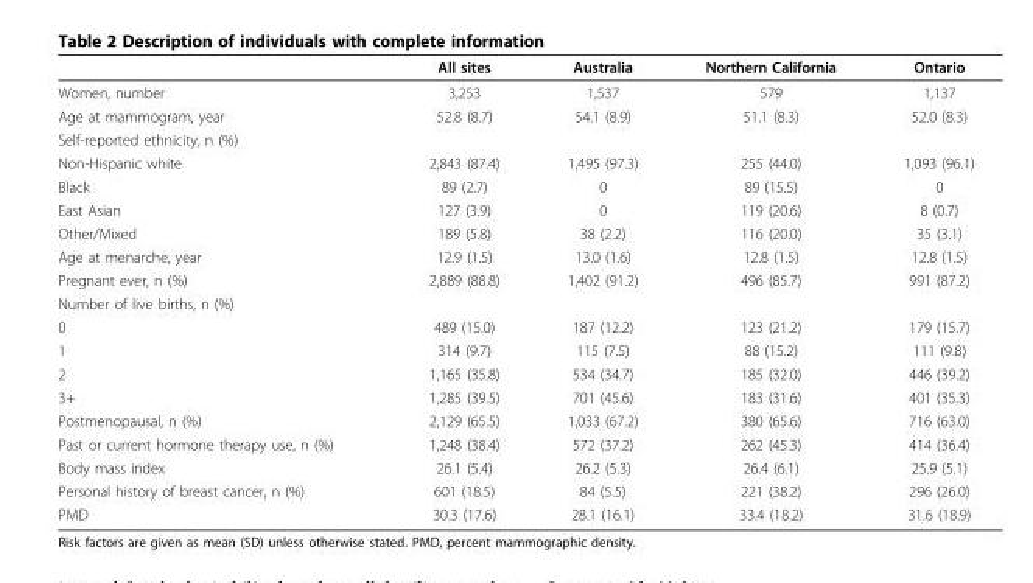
<table><thead><tr><td></td><td>All sites</td><td>Australia</td><td>Northern California</td><td>Ontario</td></tr></thead><tbody><tr><td>Women, number</td><td>3,253</td><td>1,537</td><td>579</td><td>1,137</td></tr><tr><td>Age at mammogram, year</td><td>52.8 (8.7)</td><td>54.1 (8.9)</td><td>51.1 (8.3)</td><td>52.0 (8.3)</td></tr><tr><td colspan="5">Self-reported ethnicity, n (%)</td></tr><tr><td>Non-Hispanic white</td><td>2,843 (87.4)</td><td>1,495 (97.3)</td><td>255 (44.0)</td><td>1,093 (96.1)</td></tr><tr><td>Black</td><td>89 (2.7)</td><td>0</td><td>89 (15.5)</td><td>0</td></tr><tr><td>East Asian</td><td>127 (3.9)</td><td>0</td><td>119 (20.6)</td><td>8 (0.7)</td></tr><tr><td>Other/Mixed</td><td>189 (5.8)</td><td>38 (2.2)</td><td>116 (20.0)</td><td>35 (3.1)</td></tr><tr><td>Age at menarche, year</td><td>12.9 (1.5)</td><td>13.0 (1.6)</td><td>12.8 (1.5)</td><td>12.8 (1.5)</td></tr><tr><td>Pregnant ever, n (%)</td><td>2,889 (88.8)</td><td>1,402 (91.2)</td><td>496 (85.7)</td><td>991 (87.2)</td></tr><tr><td colspan="5">Number of live births, n (%)</td></tr><tr><td>0</td><td>489 (15.0)</td><td>187 (12.2)</td><td>123 (21.2)</td><td>179 (15.7)</td></tr><tr><td>1</td><td>314 (9.7)</td><td>115 (7.5)</td><td>88 (15.2)</td><td>111 (9.8)</td></tr><tr><td>2</td><td>1,165 (35.8)</td><td>534 (34.7)</td><td>185 (32.0)</td><td>446 (39.2)</td></tr><tr><td>3+</td><td>1,285 (39.5)</td><td>701 (45.6)</td><td>183 (31.6)</td><td>401 (35.3)</td></tr><tr><td>Postmenopausal, n (%)</td><td>2,129 (65.5)</td><td>1,033 (67.2)</td><td>380 (65.6)</td><td>716 (63.0)</td></tr><tr><td>Past or current hormone therapy use, n (%)</td><td>1,248 (38.4)</td><td>572 (37.2)</td><td>262 (45.3)</td><td>414 (36.4)</td></tr><tr><td>Body mass index</td><td>26.1 (5.4)</td><td>26.2 (5.3)</td><td>26.4 (6.1)</td><td>25.9 (5.1)</td></tr><tr><td>Personal history of breast cancer, n (%)</td><td>601 (18.5)</td><td>84 (5.5)</td><td>221 (38.2)</td><td>296 (26.0)</td></tr><tr><td>PMD</td><td>30.3 (17.6)</td><td>28.1 (16.1)</td><td>33.4 (18.2)</td><td>31.6 (18.9)</td></tr></tbody></table>